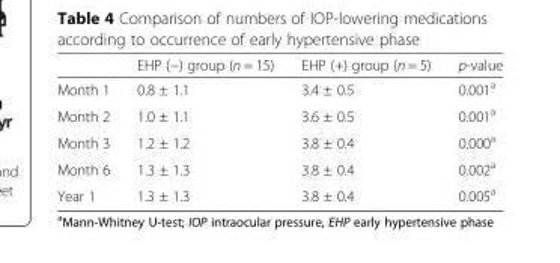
<table><thead><tr><td></td><td>EHP (−) group (n = 15)</td><td>EHP (+) group (n = 5)</td><td>p-value</td></tr></thead><tbody><tr><td>Month 1</td><td>0.8 ± 1.1</td><td>3.4 ± 0.5</td><td>0.001<sup>a</sup></td></tr><tr><td>Month 2</td><td>1.0 ± 1.1</td><td>3.6 ± 0.5</td><td>0.001<sup>a</sup></td></tr><tr><td>Month 3</td><td>1.2 ± 1.2</td><td>3.8 ± 0.4</td><td>0.000<sup>a</sup></td></tr><tr><td>Month 6</td><td>1.3 ± 1.3</td><td>3.8 ± 0.4</td><td>0.002<sup>a</sup></td></tr><tr><td>Year 1</td><td>1.3 ± 1.3</td><td>3.8 ± 0.4</td><td>0.005<sup>a</sup></td></tr></tbody></table>